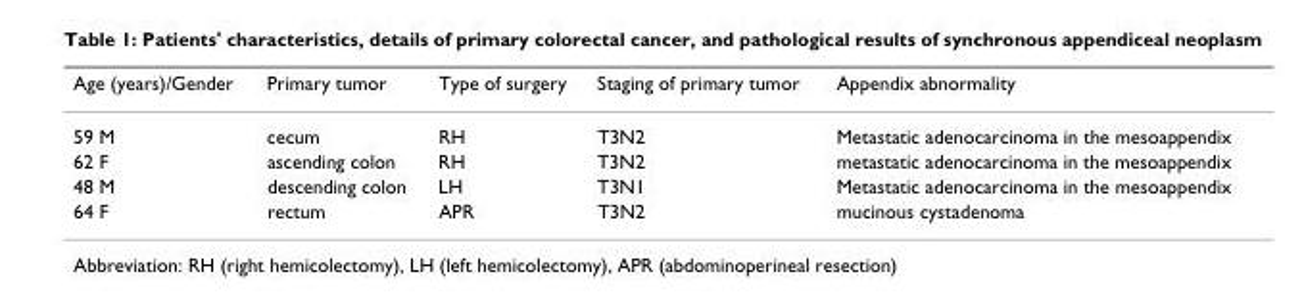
<table><thead><tr><td>Age (years)/Gender</td><td>Primary tumor</td><td>Type of surgery</td><td>Staging of primary tumor</td><td>Appendix abnormality</td></tr></thead><tbody><tr><td>59 M</td><td>cecum</td><td>RH</td><td>T3N2</td><td>Metastatic adenocarcinoma in the mesoappendix</td></tr><tr><td>62 F</td><td>ascending colon</td><td>RH</td><td>T3N2</td><td>metastatic adenocarcinoma in the mesoappendix</td></tr><tr><td>48 M</td><td>descending colon</td><td>LH</td><td>T3N1</td><td>Metastatic adenocarcinoma in the mesoappendix</td></tr><tr><td>64 F</td><td>rectum</td><td>APR</td><td>T3N2</td><td>mucinous cystadenoma</td></tr></tbody></table>